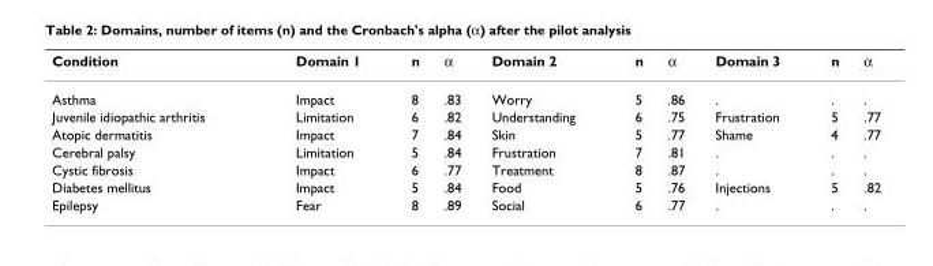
<table><thead><tr><td>Condition</td><td>Domain 1</td><td>n</td><td>α</td><td>Domain 2</td><td>n</td><td>α</td><td>Domain 3</td><td>n</td><td>α</td></tr></thead><tbody><tr><td>Asthma</td><td>Impact</td><td>8</td><td>.83</td><td>Worry</td><td>5</td><td>.86</td><td>.</td><td>.</td><td>.</td></tr><tr><td>Juvenile idiopathic arthritis</td><td>Limitation</td><td>6</td><td>.82</td><td>Understanding</td><td>6</td><td>.75</td><td>Frustration</td><td>5</td><td>.77</td></tr><tr><td>Atopic dermatitis</td><td>Impact</td><td>7</td><td>.84</td><td>Skin</td><td>5</td><td>.77</td><td>Shame</td><td>4</td><td>.77</td></tr><tr><td>Cerebral palsy</td><td>Limitation</td><td>5</td><td>.84</td><td>Frustration</td><td>7</td><td>.81</td><td>.</td><td>.</td><td>.</td></tr><tr><td>Cystic fibrosis</td><td>Impact</td><td>6</td><td>.77</td><td>Treatment</td><td>8</td><td>.87</td><td>.</td><td>.</td><td>.</td></tr><tr><td>Diabetes mellitus</td><td>Impact</td><td>5</td><td>.84</td><td>Food</td><td>5</td><td>.76</td><td>Injections</td><td>5</td><td>.82</td></tr><tr><td>Epilepsy</td><td>Fear</td><td>8</td><td>.89</td><td>Social</td><td>6</td><td>.77</td><td>.</td><td>.</td><td>.</td></tr></tbody></table>